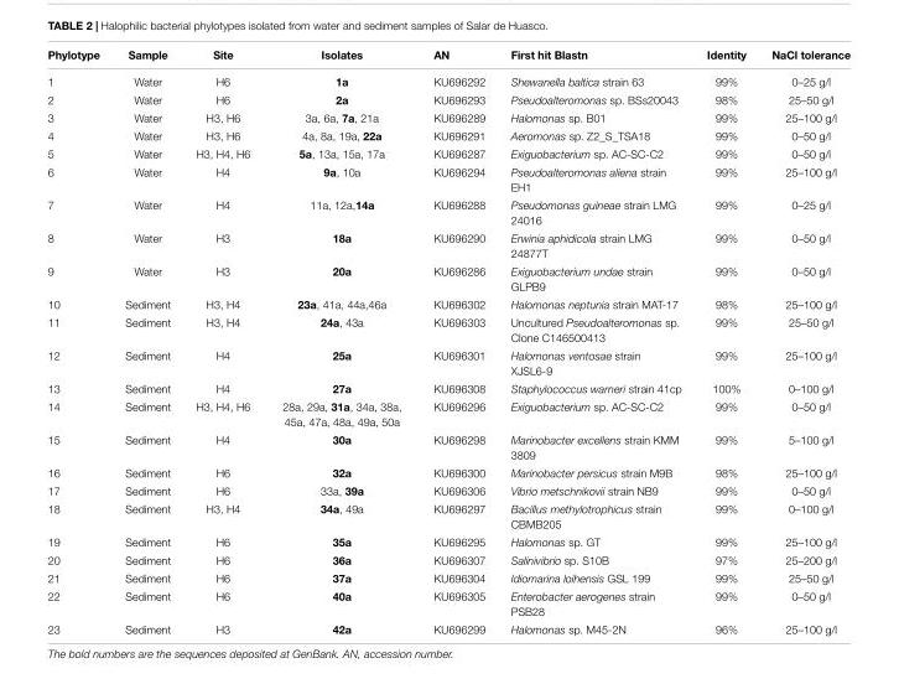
<table><thead><tr><td>Phylotype</td><td>Sample</td><td>Site</td><td>Isolates</td><td>AN</td><td>First hit Blastn</td><td>Identity</td><td>NaCl tolerance</td></tr></thead><tbody><tr><td>1</td><td>Water</td><td>H6</td><td>1a</td><td>KU696292</td><td>Shewanella baltica strain 63</td><td>99%</td><td>0–25 g/l</td></tr><tr><td>2</td><td>Water</td><td>H6</td><td>2a</td><td>KU696293</td><td>Pseudoalteromonas sp. BSs20043</td><td>98%</td><td>25–50 g/l</td></tr><tr><td>3</td><td>Water</td><td>H3, H6</td><td>3a, 6a, 7a, 21a</td><td>KU696289</td><td>Halomonas sp. B01</td><td>99%</td><td>25–100 g/l</td></tr><tr><td>4</td><td>Water</td><td>H3, H6</td><td>4a, 8a, 19a, 22a</td><td>KU696291</td><td>Aeromonas sp. Z2_S_TSA18</td><td>99%</td><td>0–50 g/l</td></tr><tr><td>5</td><td>Water</td><td>H3, H4, H6</td><td>5a, 13a, 15a, 17a</td><td>KU696287</td><td>Exiguobacterium sp. AC-SC-C2</td><td>99%</td><td>0–50 g/l</td></tr><tr><td>6</td><td>Water</td><td>H4</td><td>9a, 10a</td><td>KU696294</td><td>Pseudoalteromonas aliena strain EH1</td><td>99%</td><td>25–100 g/l</td></tr><tr><td>7</td><td>Water</td><td>H4</td><td>11a, 12a,14a</td><td>KU696288</td><td>Pseudomonas guineae strain LMG 24016</td><td>99%</td><td>0–25 g/l</td></tr><tr><td>8</td><td>Water</td><td>H3</td><td>18a</td><td>KU696290</td><td>Erwinia aphidicola strain LMG 24877T</td><td>99%</td><td>0–50 g/l</td></tr><tr><td>9</td><td>Water</td><td>H3</td><td>20a</td><td>KU696286</td><td>Exiguobacterium undae strain GLPB9</td><td>99%</td><td>0–50 g/l</td></tr><tr><td>10</td><td>Sediment</td><td>H3, H4</td><td>23a, 41a, 44a,46a</td><td>KU696302</td><td>Halomonas neptunia strain MAT-17</td><td>98%</td><td>25–100 g/l</td></tr><tr><td>11</td><td>Sediment</td><td>H3, H4</td><td>24a, 43a</td><td>KU696303</td><td>Uncultured Pseudoalteromonas sp. Clone C146500413</td><td>99%</td><td>25–50 g/l</td></tr><tr><td>12</td><td>Sediment</td><td>H4</td><td>25a</td><td>KU696301</td><td>Halomonas ventosae strain XJSL6-9</td><td>99%</td><td>25–100 g/l</td></tr><tr><td>13</td><td>Sediment</td><td>H4</td><td>27a</td><td>KU696308</td><td>Staphylococcus warneri strain 41cp</td><td>100%</td><td>0–100 g/l</td></tr><tr><td>14</td><td>Sediment</td><td>H3, H4, H6</td><td>28a, 29a, 31a, 34a, 38a, 45a, 47a, 48a, 49a, 50a</td><td>KU696296</td><td>Exiguobacterium sp. AC-SC-C2</td><td>99%</td><td>0–50 g/l</td></tr><tr><td>15</td><td>Sediment</td><td>H4</td><td>30a</td><td>KU696298</td><td>Marinobacter excellens strain KMM 3809</td><td>99%</td><td>5–100 g/l</td></tr><tr><td>16</td><td>Sediment</td><td>H6</td><td>32a</td><td>KU696300</td><td>Marinobacter persicus strain M9B</td><td>98%</td><td>25–100 g/l</td></tr><tr><td>17</td><td>Sediment</td><td>H6</td><td>33a, 39a</td><td>KU696306</td><td>Vibrio metschnikovii strain NB9</td><td>99%</td><td>0–50 g/l</td></tr><tr><td>18</td><td>Sediment</td><td>H3, H4</td><td>34a, 49a</td><td>KU696297</td><td>Bacillus methylotrophicus strain CBMB205</td><td>99%</td><td>0–100 g/l</td></tr><tr><td>19</td><td>Sediment</td><td>H6</td><td>35a</td><td>KU696295</td><td>Halomonas sp. GT</td><td>99%</td><td>25–100 g/l</td></tr><tr><td>20</td><td>Sediment</td><td>H6</td><td>36a</td><td>KU696307</td><td>Salinivibrio sp. S10B</td><td>97%</td><td>25–200 g/l</td></tr><tr><td>21</td><td>Sediment</td><td>H6</td><td>37a</td><td>KU696304</td><td>Idiomarina loihensis GSL 199</td><td>99%</td><td>25–50 g/l</td></tr><tr><td>22</td><td>Sediment</td><td>H6</td><td>40a</td><td>KU696305</td><td>Enterobacter aerogenes strain PSB28</td><td>99%</td><td>0–50 g/l</td></tr><tr><td>23</td><td>Sediment</td><td>H3</td><td>42a</td><td>KU696299</td><td>Halomonas sp. M45-2N</td><td>96%</td><td>25–100 g/l</td></tr></tbody></table>